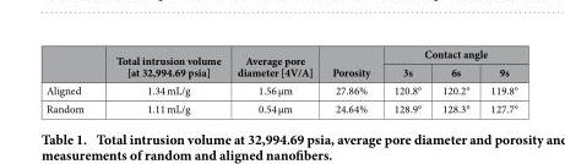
<table><thead><tr><td rowspan="2"></td><td rowspan="2">Total intrusion volume [at 32,994.69 psia]</td><td rowspan="2">Average pore diameter [4V/A]</td><td rowspan="2">Porosity</td><td colspan="3">Contact angle</td></tr><tr><td>3s</td><td>6s</td><td>9s</td></tr></thead><tbody><tr><td>Aligned</td><td>1.34 mL/g</td><td>1.56 μm</td><td>27.86%</td><td>120.8°</td><td>120.2°</td><td>119.8°</td></tr><tr><td>Random</td><td>1.11 mL/g</td><td>0.54 μm</td><td>24.64%</td><td>128.9°</td><td>128.3°</td><td>127.7°</td></tr></tbody></table>